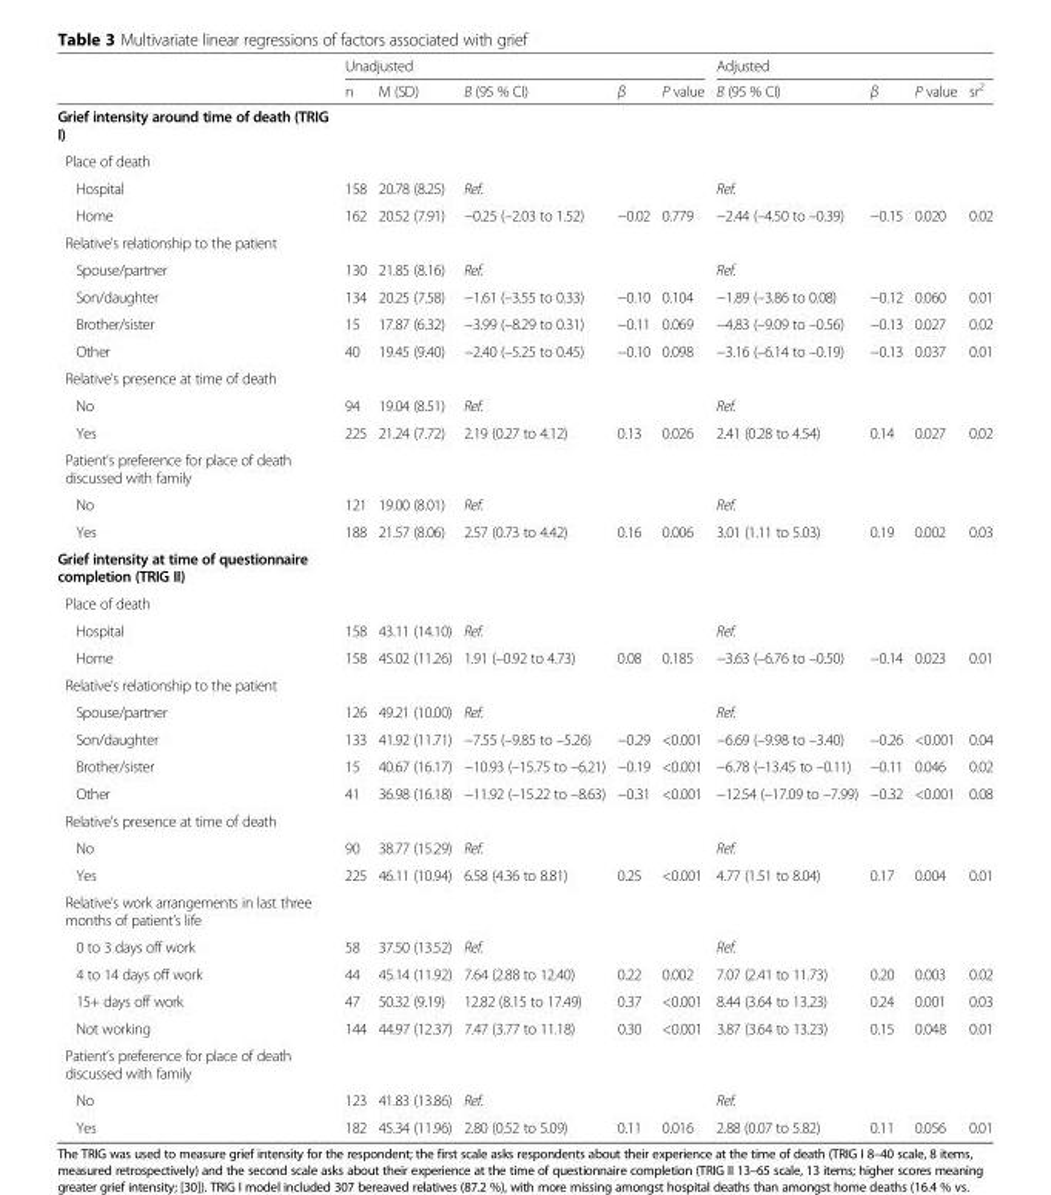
<table><thead><tr><td rowspan="2"></td><td colspan="5">Unadjusted</td><td colspan="4">Adjusted</td></tr><tr><td>n</td><td>M (SD)</td><td>B (95 % CI)</td><td>β</td><td>P value</td><td>B (95 % CI)</td><td>β</td><td>P value</td><td>sr<sup>2</sup></td></tr></thead><tbody><tr><td colspan="10">Grief intensity around time of death (TRIG I)</td></tr><tr><td colspan="10">Place of death</td></tr><tr><td>Hospital</td><td>158</td><td>20.78 (8.25)</td><td>Ref.</td><td></td><td></td><td>Ref.</td><td></td><td></td><td></td></tr><tr><td>Home</td><td>162</td><td>20.52 (7.91)</td><td>−0.25 (–2.03 to 1.52)</td><td>−0.02</td><td>0.779</td><td>−2.44 (–4.50 to –0.39)</td><td>−0.15</td><td>0.020</td><td>0.02</td></tr><tr><td colspan="10">Relative’s relationship to the patient</td></tr><tr><td>Spouse/partner</td><td>130</td><td>21.85 (8.16)</td><td>Ref.</td><td></td><td></td><td>Ref.</td><td></td><td></td><td></td></tr><tr><td>Son/daughter</td><td>134</td><td>20.25 (7.58)</td><td>−1.61 (–3.55 to 0.33)</td><td>−0.10</td><td>0.104</td><td>−1.89 (–3.86 to 0.08)</td><td>−0.12</td><td>0.060</td><td>0.01</td></tr><tr><td>Brother/sister</td><td>15</td><td>17.87 (6.32)</td><td>−3.99 (–8.29 to 0.31)</td><td>−0.11</td><td>0.069</td><td>−4.83 (–9.09 to –0.56)</td><td>−0.13</td><td>0.027</td><td>0.02</td></tr><tr><td>Other</td><td>40</td><td>19.45 (9.40)</td><td>−2.40 (–5.25 to 0.45)</td><td>−0.10</td><td>0.098</td><td>−3.16 (–6.14 to –0.19)</td><td>−0.13</td><td>0.037</td><td>0.01</td></tr><tr><td colspan="10">Relative’s presence at time of death</td></tr><tr><td>No</td><td>94</td><td>19.04 (8.51)</td><td>Ref.</td><td></td><td></td><td>Ref.</td><td></td><td></td><td></td></tr><tr><td>Yes</td><td>225</td><td>21.24 (7.72)</td><td>2.19 (0.27 to 4.12)</td><td>0.13</td><td>0.026</td><td>2.41 (0.28 to 4.54)</td><td>0.14</td><td>0.027</td><td>0.02</td></tr><tr><td colspan="10">Patient’s preference for place of death discussed with family</td></tr><tr><td>No</td><td>121</td><td>19.00 (8.01)</td><td>Ref.</td><td></td><td></td><td>Ref.</td><td></td><td></td><td></td></tr><tr><td>Yes</td><td>188</td><td>21.57 (8.06)</td><td>2.57 (0.73 to 4.42)</td><td>0.16</td><td>0.006</td><td>3.01 (1.11 to 5.03)</td><td>0.19</td><td>0.002</td><td>0.03</td></tr><tr><td colspan="10">Grief intensity at time of questionnaire completion (TRIG II)</td></tr><tr><td colspan="10">Place of death</td></tr><tr><td>Hospital</td><td>158</td><td>43.11 (14.10)</td><td>Ref.</td><td></td><td></td><td>Ref.</td><td></td><td></td><td></td></tr><tr><td>Home</td><td>158</td><td>45.02 (11.26)</td><td>1.91 (–0.92 to 4.73)</td><td>0.08</td><td>0.185</td><td>−3.63 (–6.76 to –0.50)</td><td>−0.14</td><td>0.023</td><td>0.01</td></tr><tr><td colspan="10">Relative’s relationship to the patient</td></tr><tr><td>Spouse/partner</td><td>126</td><td>49.21 (10.00)</td><td>Ref.</td><td></td><td></td><td>Ref.</td><td></td><td></td><td></td></tr><tr><td>Son/daughter</td><td>133</td><td>41.92 (11.71)</td><td>−7.55 (–9.85 to –5.26)</td><td>−0.29</td><td>&lt;0.001</td><td>−6.69 (–9.98 to –3.40)</td><td>−0.26</td><td>&lt;0.001</td><td>0.04</td></tr><tr><td>Brother/sister</td><td>15</td><td>40.67 (16.17)</td><td>−10.93 (–15.75 to –6.21)</td><td>−0.19</td><td>&lt;0.001</td><td>−6.78 (–13.45 to –0.11)</td><td>−0.11</td><td>0.046</td><td>0.02</td></tr><tr><td>Other</td><td>41</td><td>36.98 (16.18)</td><td>−11.92 (–15.22 to –8.63)</td><td>−0.31</td><td>&lt;0.001</td><td>−12.54 (–17.09 to –7.99)</td><td>−0.32</td><td>&lt;0.001</td><td>0.08</td></tr><tr><td colspan="10">Relative’s presence at time of death</td></tr><tr><td>No</td><td>90</td><td>38.77 (15.29)</td><td>Ref.</td><td></td><td></td><td>Ref.</td><td></td><td></td><td></td></tr><tr><td>Yes</td><td>225</td><td>46.11 (10.94)</td><td>6.58 (4.36 to 8.81)</td><td>0.25</td><td>&lt;0.001</td><td>4.77 (1.51 to 8.04)</td><td>0.17</td><td>0.004</td><td>0.01</td></tr><tr><td colspan="10">Relative’s work arrangements in last three months of patient’s life</td></tr><tr><td>0 to 3 days off work</td><td>58</td><td>37.50 (13.52)</td><td>Ref.</td><td></td><td></td><td>Ref.</td><td></td><td></td><td></td></tr><tr><td>4 to 14 days off work</td><td>44</td><td>45.14 (11.92)</td><td>7.64 (2.88 to 12.40)</td><td>0.22</td><td>0.002</td><td>7.07 (2.41 to 11.73)</td><td>0.20</td><td>0.003</td><td>0.02</td></tr><tr><td>15+ days off work</td><td>47</td><td>50.32 (9.19)</td><td>12.82 (8.15 to 17.49)</td><td>0.37</td><td>&lt;0.001</td><td>8.44 (3.64 to 13.23)</td><td>0.24</td><td>0.001</td><td>0.03</td></tr><tr><td>Not working</td><td>144</td><td>44.97 (12.37)</td><td>7.47 (3.77 to 11.18)</td><td>0.30</td><td>&lt;0.001</td><td>3.87 (3.64 to 13.23)</td><td>0.15</td><td>0.048</td><td>0.01</td></tr><tr><td colspan="10">Patient’s preference for place of death discussed with family</td></tr><tr><td>No</td><td>123</td><td>41.83 (13.86)</td><td>Ref.</td><td></td><td></td><td>Ref.</td><td></td><td></td><td></td></tr><tr><td>Yes</td><td>182</td><td>45.34 (11.96)</td><td>2.80 (0.52 to 5.09)</td><td>0.11</td><td>0.016</td><td>2.88 (0.07 to 5.82)</td><td>0.11</td><td>0.056</td><td>0.01</td></tr></tbody></table>